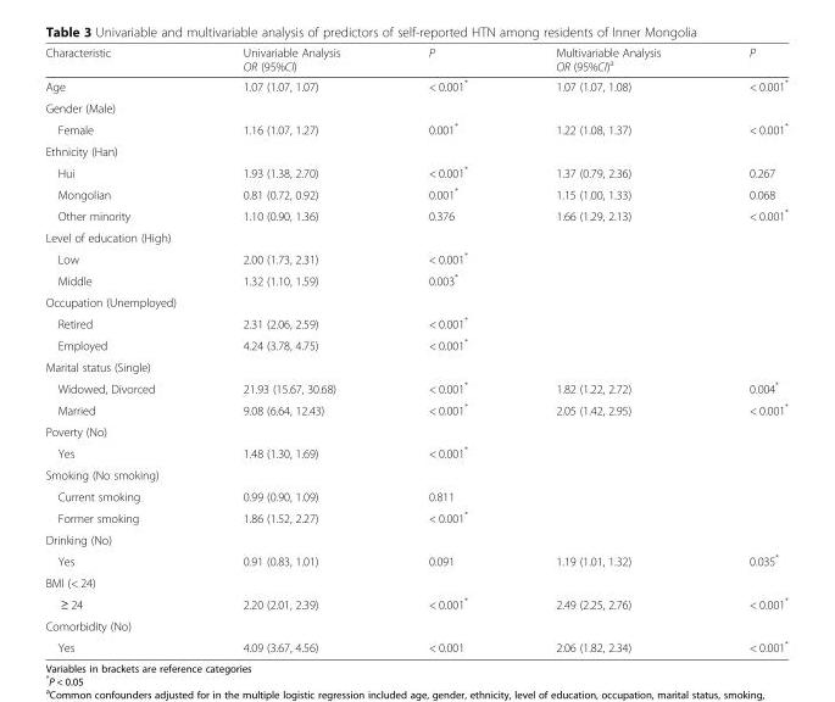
<table><thead><tr><td>Characteristic</td><td>Univariable Analysis OR (95%CI)</td><td>P</td><td>Multivariable Analysis OR (95%CI)<sup>a</sup></td><td>P</td></tr></thead><tbody><tr><td>Age</td><td>1.07 (1.07, 1.07)</td><td>&lt; 0.001*</td><td>1.07 (1.07, 1.08)</td><td>&lt; 0.001*</td></tr><tr><td colspan="5">Gender (Male)</td></tr><tr><td>Female</td><td>1.16 (1.07, 1.27)</td><td>0.001*</td><td>1.22 (1.08, 1.37)</td><td>&lt; 0.001*</td></tr><tr><td colspan="5">Ethnicity (Han)</td></tr><tr><td>Hui</td><td>1.93 (1.38, 2.70)</td><td>&lt; 0.001*</td><td>1.37 (0.79, 2.36)</td><td>0.267</td></tr><tr><td>Mongolian</td><td>0.81 (0.72, 0.92)</td><td>0.001*</td><td>1.15 (1.00, 1.33)</td><td>0.068</td></tr><tr><td>Other minority</td><td>1.10 (0.90, 1.36)</td><td>0.376</td><td>1.66 (1.29, 2.13)</td><td>&lt; 0.001*</td></tr><tr><td colspan="5">Level of education (High)</td></tr><tr><td>Low</td><td>2.00 (1.73, 2.31)</td><td>&lt; 0.001*</td><td></td><td></td></tr><tr><td>Middle</td><td>1.32 (1.10, 1.59)</td><td>0.003*</td><td></td><td></td></tr><tr><td colspan="5">Occupation (Unemployed)</td></tr><tr><td>Retired</td><td>2.31 (2.06, 2.59)</td><td>&lt; 0.001*</td><td></td><td></td></tr><tr><td>Employed</td><td>4.24 (3.78, 4.75)</td><td>&lt; 0.001*</td><td></td><td></td></tr><tr><td colspan="5">Marital status (Single)</td></tr><tr><td>Widowed, Divorced</td><td>21.93 (15.67, 30.68)</td><td>&lt; 0.001*</td><td>1.82 (1.22, 2.72)</td><td>0.004*</td></tr><tr><td>Married</td><td>9.08 (6.64, 12.43)</td><td>&lt; 0.001*</td><td>2.05 (1.42, 2.95)</td><td>&lt; 0.001*</td></tr><tr><td colspan="5">Poverty (No)</td></tr><tr><td>Yes</td><td>1.48 (1.30, 1.69)</td><td>&lt; 0.001*</td><td></td><td></td></tr><tr><td colspan="5">Smoking (No smoking)</td></tr><tr><td>Current smoking</td><td>0.99 (0.90, 1.09)</td><td>0.811</td><td></td><td></td></tr><tr><td>Former smoking</td><td>1.86 (1.52, 2.27)</td><td>&lt; 0.001*</td><td></td><td></td></tr><tr><td colspan="5">Drinking (No)</td></tr><tr><td>Yes</td><td>0.91 (0.83, 1.01)</td><td>0.091</td><td>1.19 (1.01, 1.32)</td><td>0.035*</td></tr><tr><td colspan="5">BMI (&lt; 24)</td></tr><tr><td>≥ 24</td><td>2.20 (2.01, 2.39)</td><td>&lt; 0.001*</td><td>2.49 (2.25, 2.76)</td><td>&lt; 0.001*</td></tr><tr><td colspan="5">Comorbidity (No)</td></tr><tr><td>Yes</td><td>4.09 (3.67, 4.56)</td><td>&lt; 0.001</td><td>2.06 (1.82, 2.34)</td><td>&lt; 0.001*</td></tr></tbody></table>